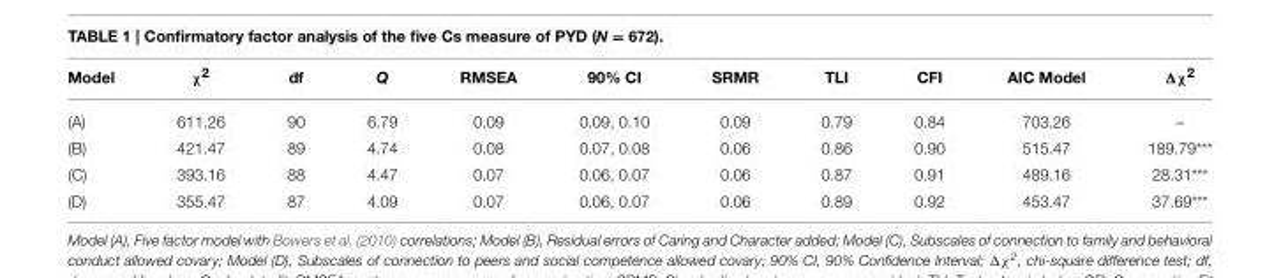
<table><thead><tr><td>Model</td><td>χ<sup>2</sup></td><td>df</td><td>Q</td><td>RMSEA</td><td>90% CI</td><td>SRMR</td><td>TLI</td><td>CFI</td><td>AIC Model</td><td>Δχ<sup>2</sup></td></tr></thead><tbody><tr><td>(A)</td><td>611.26</td><td>90</td><td>6.79</td><td>0.09</td><td>0.09, 0.10</td><td>0.09</td><td>0.79</td><td>0.84</td><td>703.26</td><td>–</td></tr><tr><td>(B)</td><td>421.47</td><td>89</td><td>4.74</td><td>0.08</td><td>0.07, 0.08</td><td>0.06</td><td>0.86</td><td>0.90</td><td>515.47</td><td>189.79***</td></tr><tr><td>(C)</td><td>393.16</td><td>88</td><td>4.47</td><td>0.07</td><td>0.06, 0.07</td><td>0.06</td><td>0.87</td><td>0.91</td><td>489.16</td><td>28.31***</td></tr><tr><td>(D)</td><td>355.47</td><td>87</td><td>4.09</td><td>0.07</td><td>0.06, 0.07</td><td>0.06</td><td>0.89</td><td>0.92</td><td>453.47</td><td>37.69***</td></tr></tbody></table>